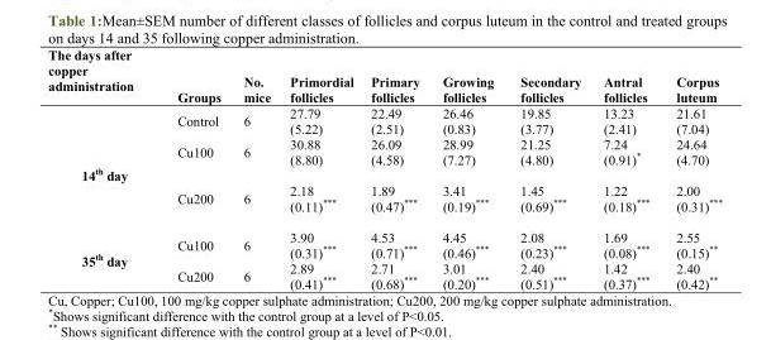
<table><thead><tr><td>The days after copper administration</td><td>Groups</td><td>No. mice</td><td>Primordial follicles</td><td>Primary follicles</td><td>Growing follicles</td><td>Secondary follicles</td><td>Antral follicles</td><td>Corpus luteum</td></tr></thead><tbody><tr><td rowspan="3">14<sup>th</sup> day</td><td>Control</td><td>6</td><td>27.79 (5.22)</td><td>22.49 (2.51)</td><td>26.46 (0.83)</td><td>19.85 (3.77)</td><td>13.23 (2.41)</td><td>21.61 (7.04)</td></tr><tr><td>Cu100</td><td>6</td><td>30.88 (8.80)</td><td>26.09 (4.58)</td><td>28.99 (7.27)</td><td>21.25 (4.80)</td><td>7.24 (0.91)*</td><td>24.64 (4.70)</td></tr><tr><td>Cu200</td><td>6</td><td>2.18 (0.11)***</td><td>1.89 (0.47)***</td><td>3.41 (0.19)***</td><td>1.45 (0.69)***</td><td>1.22 (0.18)***</td><td>2.00 (0.31)***</td></tr><tr><td rowspan="2">35<sup>th</sup> day</td><td>Cu100</td><td>6</td><td>3.90 (0.31)***</td><td>4.53 (0.71)***</td><td>4.45 (0.46)***</td><td>2.08 (0.23)***</td><td>1.69 (0.08)***</td><td>2.55 (0.15)**</td></tr><tr><td>Cu200</td><td>6</td><td>2.89 (0.41)***</td><td>2.71 (0.68)***</td><td>3.01 (0.20)***</td><td>2.40 (0.51)***</td><td>1.42 (0.37)***</td><td>2.40 (0.42)**</td></tr></tbody></table>